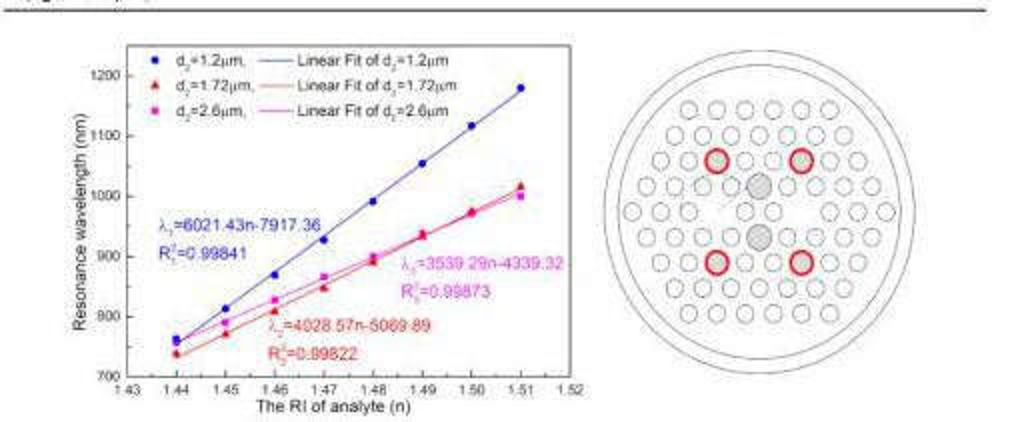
<table><thead><tr><td>Sensor</td><td>Refractive Index Range</td><td>Wavelength Sensitivity (nm/RIU)</td><td>R<sup>2</sup></td><td>Structure of the Photonic Crystal Fiber (PCF)</td></tr></thead><tbody><tr><td>Ref. [3]</td><td>1.33–1.42</td><td>16,400 (maximum)</td><td>(Nonlinearity)</td><td>Exposed-core grapefruit PCF</td></tr><tr><td>Ref. [8]</td><td>1.33–1.37</td><td>5200</td><td>(Not given)</td><td>D-shaped PCF</td></tr><tr><td>Ref. [12]</td><td>1.39–1.42 1.43–1.46</td><td>4350 9200</td><td>0.99698 0.99864</td><td>Dual-core PCF</td></tr><tr><td>Ref. [14]</td><td>1.34–1.37</td><td>4400</td><td>0.9584</td><td>Circular lattice PCF</td></tr><tr><td>Ref. [30]</td><td>1.36–1.41</td><td>14,660 (average)</td><td>(Not given)</td><td>Dual D-shaped PCF</td></tr><tr><td>This work (d<sub>2</sub> = 1.2 μm)</td><td>1.44–1.51</td><td>6021</td><td>0.99841</td><td>Dual-core PCF</td></tr><tr><td>This work (d<sub>2</sub> = 1.72 μm)</td><td>1.44–1.51</td><td>4028</td><td>0.99822</td><td>Dual-core PCF</td></tr></tbody></table>